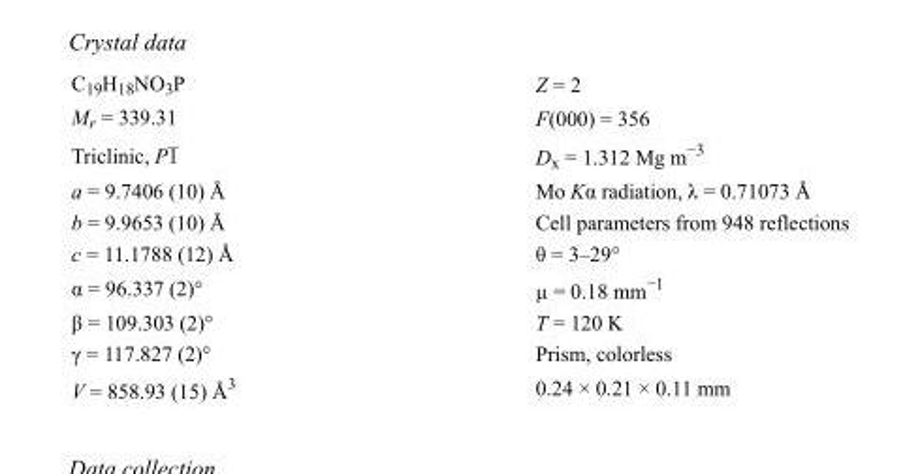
<table><tbody><tr><td>C<sub>19</sub>H<sub>18</sub>NO<sub>3</sub>P</td><td>Z = 2</td></tr><tr><td>M<sub>r</sub> = 339.31</td><td>F(000) = 356</td></tr><tr><td>Triclinic, P1</td><td>D<sub>x</sub> = 1.312 Mg m<sup>−3</sup></td></tr><tr><td>a = 9.7406 (10) Å</td><td>Mo Kα radiation, λ = 0.71073 Å</td></tr><tr><td>b = 9.9653 (10) Å</td><td>Cell parameters from 948 reflections</td></tr><tr><td>c = 11.1788 (12) Å</td><td>θ = 3–29°</td></tr><tr><td>α = 96.337 (2)°</td><td>µ = 0.18 mm<sup>−1</sup></td></tr><tr><td>β = 109.303 (2)°</td><td>T = 120 K</td></tr><tr><td>γ = 117.827 (2)°</td><td>Prism, colorless</td></tr><tr><td>V = 858.93 (15) Å<sup>3</sup></td><td>0.24 × 0.21 × 0.11 mm</td></tr></tbody></table>